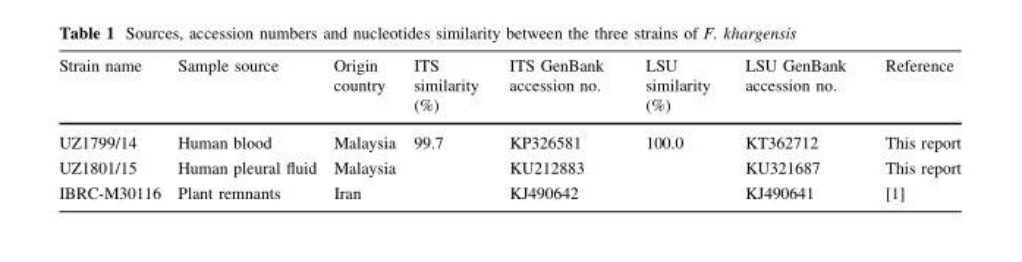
<table><thead><tr><td>Strain name</td><td>Sample source</td><td>Origin country</td><td>ITS similarity (%)</td><td>ITS GenBank accession no.</td><td>LSU similarity (%)</td><td>LSU GenBank accession no.</td><td>Reference</td></tr></thead><tbody><tr><td>UZ1799/14</td><td>Human blood</td><td>Malaysia</td><td rowspan="3">99.7</td><td>KP326581</td><td rowspan="3">100.0</td><td>KT362712</td><td>This report</td></tr><tr><td>UZ1801/15</td><td>Human pleural fluid</td><td>Malaysia</td><td>KU212883</td><td>KU321687</td><td>This report</td></tr><tr><td>IBRC-M30116</td><td>Plant remnants</td><td>Iran</td><td>KJ490642</td><td>KJ490641</td><td>[1]</td></tr></tbody></table>